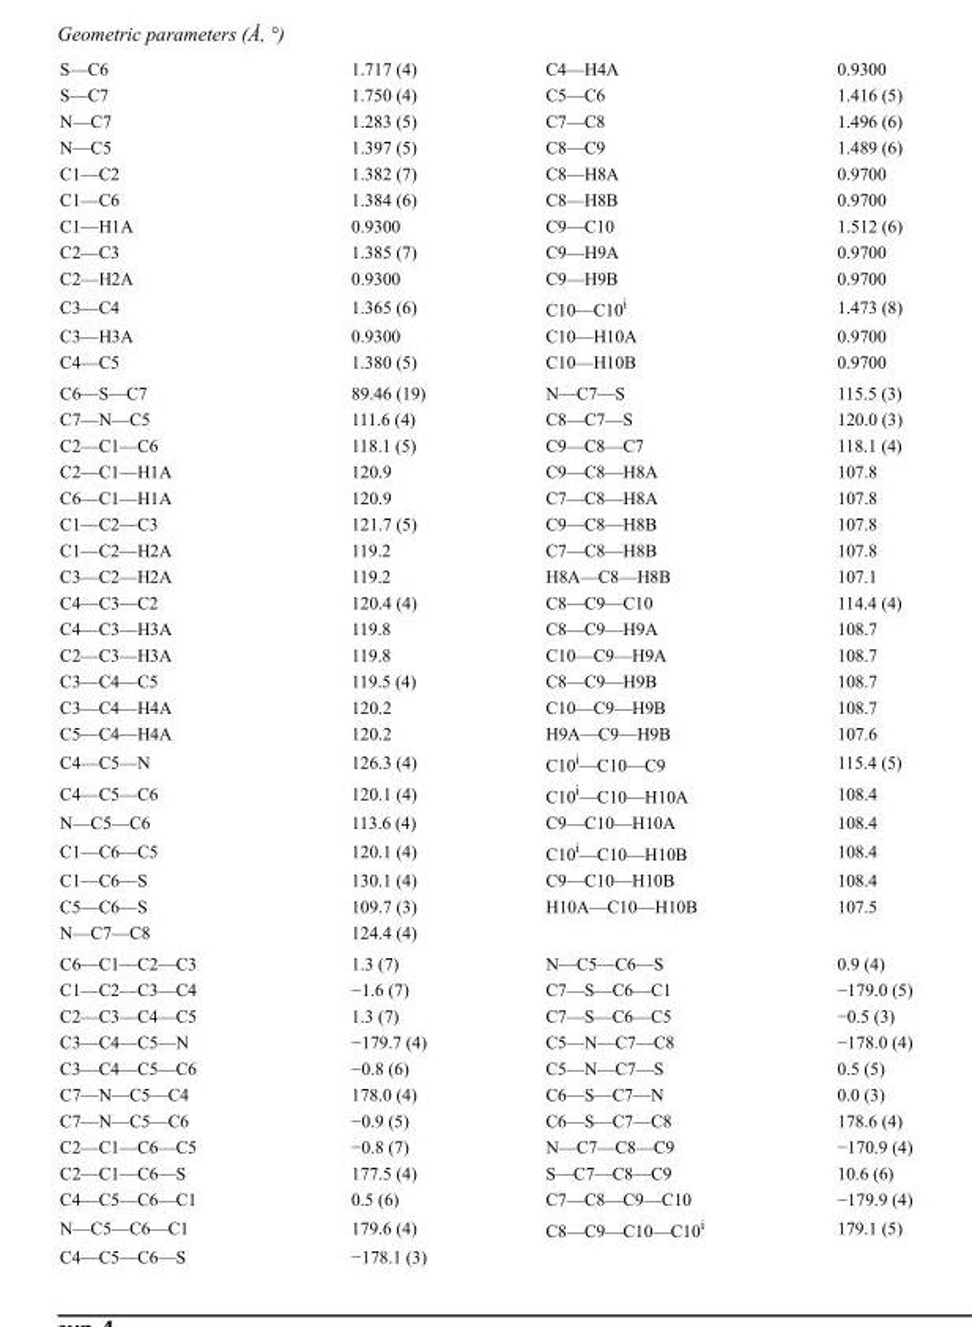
<table><tbody><tr><td>S—C6</td><td>1.717 (4)</td><td>C4—H4A</td><td>0.9300</td></tr><tr><td>S—C7</td><td>1.750 (4)</td><td>C5—C6</td><td>1.416 (5)</td></tr><tr><td>N—C7</td><td>1.283 (5)</td><td>C7—C8</td><td>1.496 (6)</td></tr><tr><td>N—C5</td><td>1.397 (5)</td><td>C8—C9</td><td>1.489 (6)</td></tr><tr><td>C1—C2</td><td>1.382 (7)</td><td>C8—H8A</td><td>0.9700</td></tr><tr><td>C1—C6</td><td>1.384 (6)</td><td>C8—H8B</td><td>0.9700</td></tr><tr><td>C1—H1A</td><td>0.9300</td><td>C9—C10</td><td>1.512 (6)</td></tr><tr><td>C2—C3</td><td>1.385 (7)</td><td>C9—H9A</td><td>0.9700</td></tr><tr><td>C2—H2A</td><td>0.9300</td><td>C9—H9B</td><td>0.9700</td></tr><tr><td>C3—C4</td><td>1.365 (6)</td><td>C10—C10<sup>i</sup></td><td>1.473 (8)</td></tr><tr><td>C3—H3A</td><td>0.9300</td><td>C10—H10A</td><td>0.9700</td></tr><tr><td>C4—C5</td><td>1.380 (5)</td><td>C10—H10B</td><td>0.9700</td></tr><tr><td>C6—S—C7</td><td>89.46 (19)</td><td>N—C7—S</td><td>115.5 (3)</td></tr><tr><td>C7—N—C5</td><td>111.6 (4)</td><td>C8—C7—S</td><td>120.0 (3)</td></tr><tr><td>C2—C1—C6</td><td>118.1 (5)</td><td>C9—C8—C7</td><td>118.1 (4)</td></tr><tr><td>C2—C1—H1A</td><td>120.9</td><td>C9—C8—H8A</td><td>107.8</td></tr><tr><td>C6—C1—H1A</td><td>120.9</td><td>C7—C8—H8A</td><td>107.8</td></tr><tr><td>C1—C2—C3</td><td>121.7 (5)</td><td>C9—C8—H8B</td><td>107.8</td></tr><tr><td>C1—C2—H2A</td><td>119.2</td><td>C7—C8—H8B</td><td>107.8</td></tr><tr><td>C3—C2—H2A</td><td>119.2</td><td>H8A—C8—H8B</td><td>107.1</td></tr><tr><td>C4—C3—C2</td><td>120.4 (4)</td><td>C8—C9—C10</td><td>114.4 (4)</td></tr><tr><td>C4—C3—H3A</td><td>119.8</td><td>C8—C9—H9A</td><td>108.7</td></tr><tr><td>C2—C3—H3A</td><td>119.8</td><td>C10—C9—H9A</td><td>108.7</td></tr><tr><td>C3—C4—C5</td><td>119.5 (4)</td><td>C8—C9—H9B</td><td>108.7</td></tr><tr><td>C3—C4—H4A</td><td>120.2</td><td>C10—C9—H9B</td><td>108.7</td></tr><tr><td>C5—C4—H4A</td><td>120.2</td><td>H9A—C9—H9B</td><td>107.6</td></tr><tr><td>C4—C5—N</td><td>126.3 (4)</td><td>C10<sup>i</sup>—C10—C9</td><td>115.4 (5)</td></tr><tr><td>C4—C5—C6</td><td>120.1 (4)</td><td>C10<sup>i</sup>—C10—H10A</td><td>108.4</td></tr><tr><td>N—C5—C6</td><td>113.6 (4)</td><td>C9—C10—H10A</td><td>108.4</td></tr><tr><td>C1—C6—C5</td><td>120.1 (4)</td><td>C10<sup>i</sup>—C10—H10B</td><td>108.4</td></tr><tr><td>C1—C6—S</td><td>130.1 (4)</td><td>C9—C10—H10B</td><td>108.4</td></tr><tr><td>C5—C6—S</td><td>109.7 (3)</td><td>H10A—C10—H10B</td><td>107.5</td></tr><tr><td>N—C7—C8</td><td>124.4 (4)</td><td></td><td></td></tr><tr><td>C6—C1—C2—C3</td><td>1.3 (7)</td><td>N—C5—C6—S</td><td>0.9 (4)</td></tr><tr><td>C1—C2—C3—C4</td><td>−1.6 (7)</td><td>C7—S—C6—C1</td><td>−179.0 (5)</td></tr><tr><td>C2—C3—C4—C5</td><td>1.3 (7)</td><td>C7—S—C6—C5</td><td>−0.5 (3)</td></tr><tr><td>C3—C4—C5—N</td><td>−179.7 (4)</td><td>C5—N—C7—C8</td><td>−178.0 (4)</td></tr><tr><td>C3—C4—C5—C6</td><td>−0.8 (6)</td><td>C5—N—C7—S</td><td>0.5 (5)</td></tr><tr><td>C7—N—C5—C4</td><td>178.0 (4)</td><td>C6—S—C7—N</td><td>0.0 (3)</td></tr><tr><td>C7—N—C5—C6</td><td>−0.9 (5)</td><td>C6—S—C7—C8</td><td>178.6 (4)</td></tr><tr><td>C2—C1—C6—C5</td><td>−0.8 (7)</td><td>N—C7—C8—C9</td><td>−170.9 (4)</td></tr><tr><td>C2—C1—C6—S</td><td>177.5 (4)</td><td>S—C7—C8—C9</td><td>10.6 (6)</td></tr><tr><td>C4—C5—C6—C1</td><td>0.5 (6)</td><td>C7—C8—C9—C10</td><td>−179.9 (4)</td></tr><tr><td>N—C5—C6—C1</td><td>179.6 (4)</td><td>C8—C9—C10—C10<sup>i</sup></td><td>179.1 (5)</td></tr><tr><td>C4—C5—C6—S</td><td>−178.1 (3)</td><td></td><td></td></tr></tbody></table>